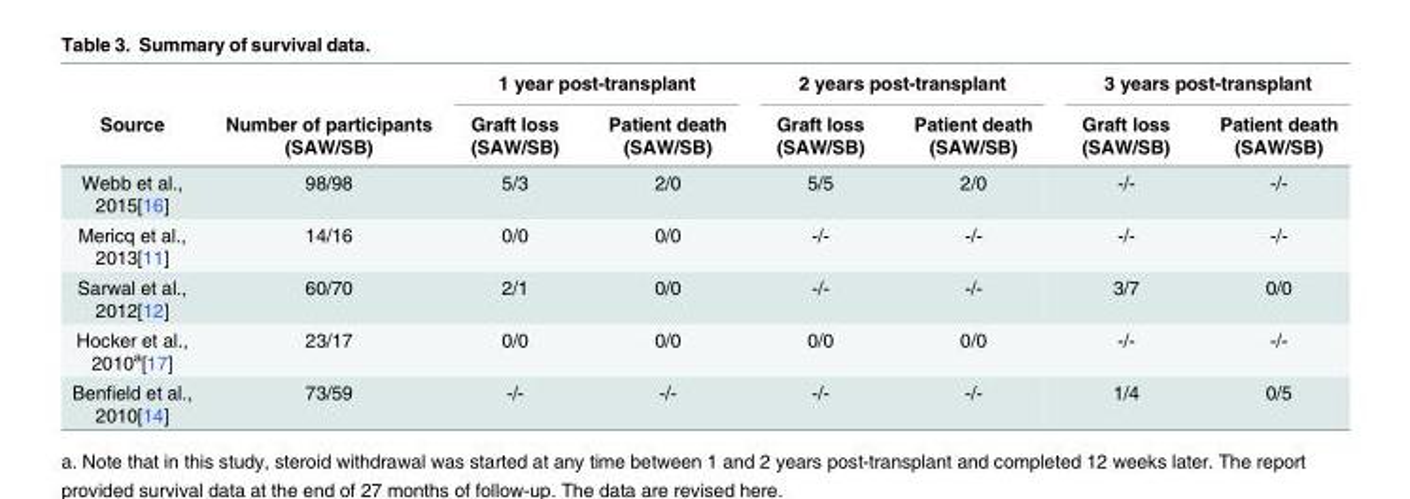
<table><thead><tr><td rowspan="2">Source</td><td rowspan="2">Number of participants (SAW/SB)</td><td colspan="2">1 year post-transplant</td><td colspan="2">2 years post-transplant</td><td colspan="2">3 years post-transplant</td></tr><tr><td>Graft loss (SAW/SB)</td><td>Patient death (SAW/SB)</td><td>Graft loss (SAW/SB)</td><td>Patient death (SAW/SB)</td><td>Graft loss (SAW/SB)</td><td>Patient death (SAW/SB)</td></tr></thead><tbody><tr><td>Webb et al., 2015[16]</td><td>98/98</td><td>5/3</td><td>2/0</td><td>5/5</td><td>2/0</td><td>-/-</td><td>-/-</td></tr><tr><td>Mericq et al., 2013[11]</td><td>14/16</td><td>0/0</td><td>0/0</td><td>-/-</td><td>-/-</td><td>-/-</td><td>-/-</td></tr><tr><td>Sarwal et al., 2012[12]</td><td>60/70</td><td>2/1</td><td>0/0</td><td>-/-</td><td>-/-</td><td>3/7</td><td>0/0</td></tr><tr><td>Hocker et al., 2010<sup>a</sup>[17]</td><td>23/17</td><td>0/0</td><td>0/0</td><td>0/0</td><td>0/0</td><td>-/-</td><td>-/-</td></tr><tr><td>Benfield et al., 2010[14]</td><td>73/59</td><td>-/-</td><td>-/-</td><td>-/-</td><td>-/-</td><td>1/4</td><td>0/5</td></tr></tbody></table>